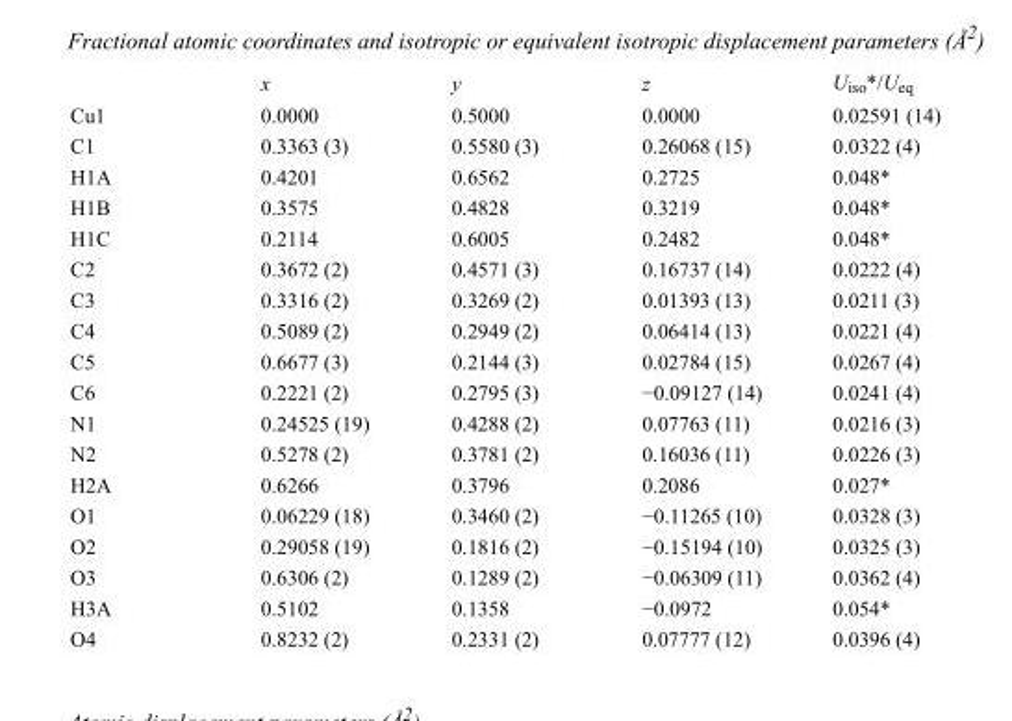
<table><thead><tr><td></td><td>x</td><td>y</td><td>z</td><td>U<sub>iso</sub>*/U<sub>eq</sub></td></tr></thead><tbody><tr><td>Cu1</td><td>0.0000</td><td>0.5000</td><td>0.0000</td><td>0.02591 (14)</td></tr><tr><td>C1</td><td>0.3363 (3)</td><td>0.5580 (3)</td><td>0.26068 (15)</td><td>0.0322 (4)</td></tr><tr><td>H1A</td><td>0.4201</td><td>0.6562</td><td>0.2725</td><td>0.048*</td></tr><tr><td>H1B</td><td>0.3575</td><td>0.4828</td><td>0.3219</td><td>0.048*</td></tr><tr><td>H1C</td><td>0.2114</td><td>0.6005</td><td>0.2482</td><td>0.048*</td></tr><tr><td>C2</td><td>0.3672 (2)</td><td>0.4571 (3)</td><td>0.16737 (14)</td><td>0.0222 (4)</td></tr><tr><td>C3</td><td>0.3316 (2)</td><td>0.3269 (2)</td><td>0.01393 (13)</td><td>0.0211 (3)</td></tr><tr><td>C4</td><td>0.5089 (2)</td><td>0.2949 (2)</td><td>0.06414 (13)</td><td>0.0221 (4)</td></tr><tr><td>C5</td><td>0.6677 (3)</td><td>0.2144 (3)</td><td>0.02784 (15)</td><td>0.0267 (4)</td></tr><tr><td>C6</td><td>0.2221 (2)</td><td>0.2795 (3)</td><td>−0.09127 (14)</td><td>0.0241 (4)</td></tr><tr><td>N1</td><td>0.24525 (19)</td><td>0.4288 (2)</td><td>0.07763 (11)</td><td>0.0216 (3)</td></tr><tr><td>N2</td><td>0.5278 (2)</td><td>0.3781 (2)</td><td>0.16036 (11)</td><td>0.0226 (3)</td></tr><tr><td>H2A</td><td>0.6266</td><td>0.3796</td><td>0.2086</td><td>0.027*</td></tr><tr><td>O1</td><td>0.06229 (18)</td><td>0.3460 (2)</td><td>−0.11265 (10)</td><td>0.0328 (3)</td></tr><tr><td>O2</td><td>0.29058 (19)</td><td>0.1816 (2)</td><td>−0.15194 (10)</td><td>0.0325 (3)</td></tr><tr><td>O3</td><td>0.6306 (2)</td><td>0.1289 (2)</td><td>−0.06309 (11)</td><td>0.0362 (4)</td></tr><tr><td>H3A</td><td>0.5102</td><td>0.1358</td><td>−0.0972</td><td>0.054*</td></tr><tr><td>O4</td><td>0.8232 (2)</td><td>0.2331 (2)</td><td>0.07777 (12)</td><td>0.0396 (4)</td></tr></tbody></table>